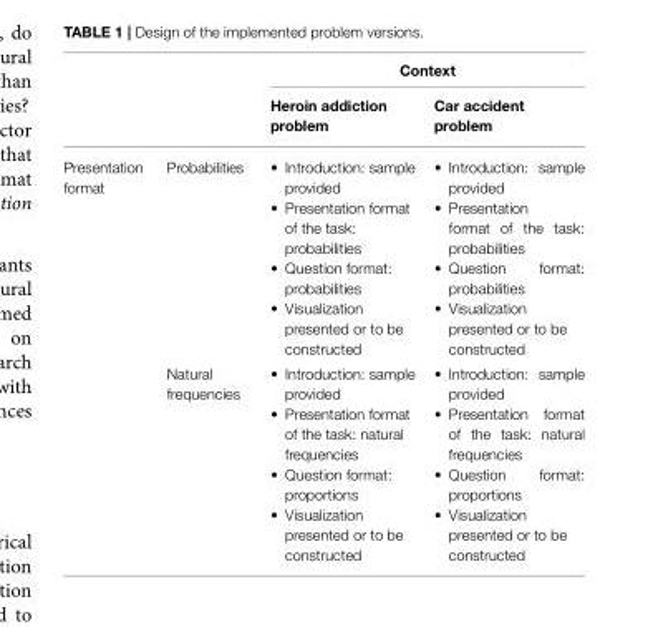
<table><thead><tr><td rowspan="2"></td><td rowspan="2"></td><td colspan="2">Context</td></tr><tr><td>Heroin addiction problem</td><td>Car accident problem</td></tr></thead><tbody><tr><td rowspan="2">Presentation format</td><td>Probabilities</td><td>• Introduction: sample provided • Presentation format of the task: probabilities • Question format: probabilities • Visualization presented or to be constructed</td><td>• Introduction: sample provided • Presentation format of the task: probabilities • Question format: probabilities • Visualization presented or to be constructed</td></tr><tr><td>Natural frequencies</td><td>• Introduction: sample provided • Presentation format of the task: natural frequencies • Question format: proportions • Visualization presented or to be constructed</td><td>• Introduction: sample provided • Presentation format of the task: natural frequencies • Question format: proportions • Visualization presented or to be constructed</td></tr></tbody></table>